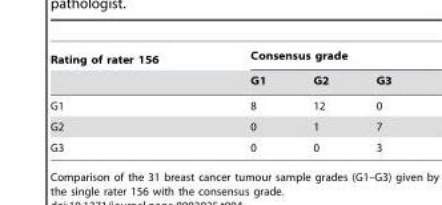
<table><thead><tr><td rowspan="2">Rating of rater 156</td><td colspan="3">Consensus grade</td></tr><tr><td>G1</td><td>G2</td><td>G3</td></tr></thead><tbody><tr><td>G1</td><td>8</td><td>12</td><td>0</td></tr><tr><td>G2</td><td>0</td><td>1</td><td>7</td></tr><tr><td>G3</td><td>0</td><td>0</td><td>3</td></tr></tbody></table>